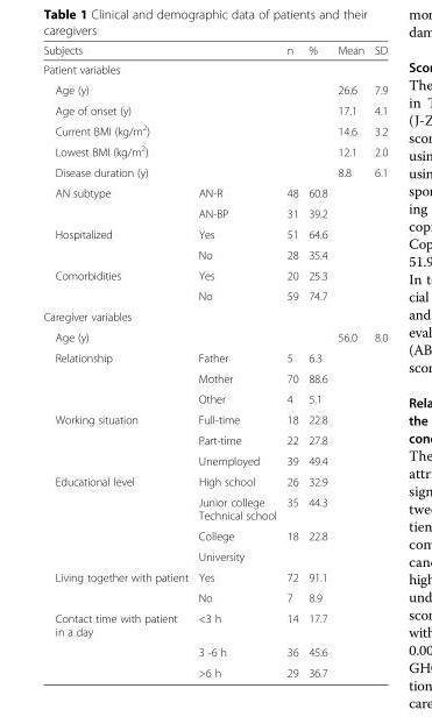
<table><thead><tr><td>Subjects</td><td></td><td>n</td><td>%</td><td>Mean</td><td>SD</td></tr></thead><tbody><tr><td colspan="6">Patient variables</td></tr><tr><td>Age (y)</td><td></td><td></td><td></td><td>26.6</td><td>7.9</td></tr><tr><td>Age of onset (y)</td><td></td><td></td><td></td><td>17.1</td><td>4.1</td></tr><tr><td>Current BMI (kg/m<sup>2</sup>)</td><td></td><td></td><td></td><td>14.6</td><td>3.2</td></tr><tr><td>Lowest BMI (kg/m<sup>2</sup>)</td><td></td><td></td><td></td><td>12.1</td><td>2.0</td></tr><tr><td>Disease duration (y)</td><td></td><td></td><td></td><td>8.8</td><td>6.1</td></tr><tr><td rowspan="2">AN subtype</td><td>AN-R</td><td>48</td><td>60.8</td><td></td><td></td></tr><tr><td>AN-BP</td><td>31</td><td>39.2</td><td></td><td></td></tr><tr><td rowspan="2">Hospitalized</td><td>Yes</td><td>51</td><td>64.6</td><td></td><td></td></tr><tr><td>No</td><td>28</td><td>35.4</td><td></td><td></td></tr><tr><td rowspan="2">Comorbidities</td><td>Yes</td><td>20</td><td>25.3</td><td></td><td></td></tr><tr><td>No</td><td>59</td><td>74.7</td><td></td><td></td></tr><tr><td colspan="6">Caregiver variables</td></tr><tr><td>Age (y)</td><td></td><td></td><td></td><td>56.0</td><td>8.0</td></tr><tr><td rowspan="3">Relationship</td><td>Father</td><td>5</td><td>6.3</td><td></td><td></td></tr><tr><td>Mother</td><td>70</td><td>88.6</td><td></td><td></td></tr><tr><td>Other</td><td>4</td><td>5.1</td><td></td><td></td></tr><tr><td rowspan="3">Working situation</td><td>Full-time</td><td>18</td><td>22.8</td><td></td><td></td></tr><tr><td>Part-time</td><td>22</td><td>27.8</td><td></td><td></td></tr><tr><td>Unemployed</td><td>39</td><td>49.4</td><td></td><td></td></tr><tr><td rowspan="4">Educational level</td><td>High school</td><td>26</td><td>32.9</td><td></td><td></td></tr><tr><td>Junior college Technical school</td><td>35</td><td>44.3</td><td></td><td></td></tr><tr><td>College</td><td>18</td><td>22.8</td><td></td><td></td></tr><tr><td>University</td><td></td><td></td><td></td><td></td></tr><tr><td rowspan="2">Living together with patient</td><td>Yes</td><td>72</td><td>91.1</td><td></td><td></td></tr><tr><td>No</td><td>7</td><td>8.9</td><td></td><td></td></tr><tr><td rowspan="3">Contact time with patient in a day</td><td>&lt;3 h</td><td>14</td><td>17.7</td><td></td><td></td></tr><tr><td>3 -6 h</td><td>36</td><td>45.6</td><td></td><td></td></tr><tr><td>&gt;6 h</td><td>29</td><td>36.7</td><td></td><td></td></tr></tbody></table>